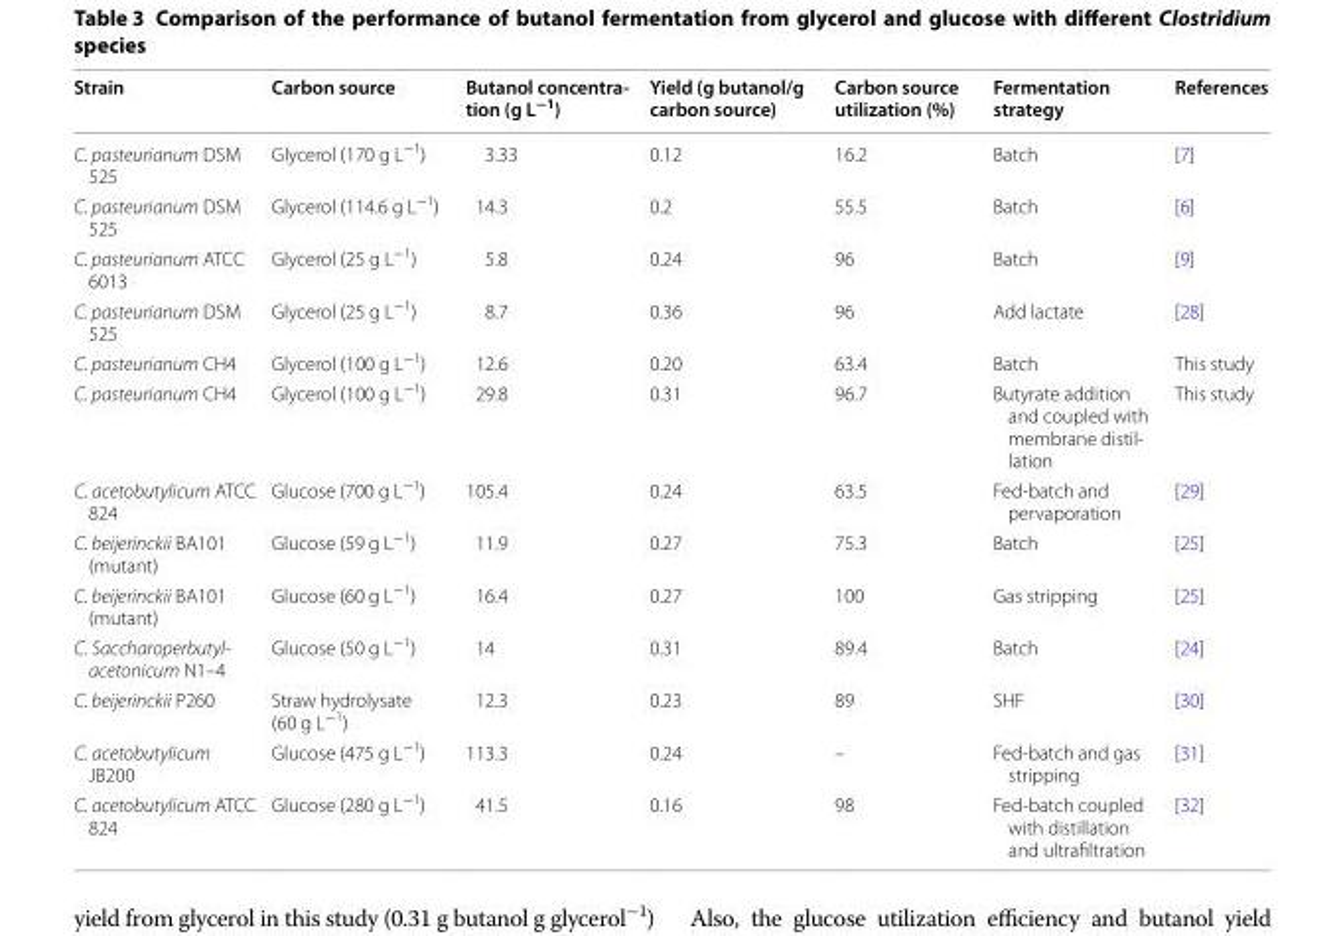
<table><thead><tr><td>Strain</td><td>Carbon source</td><td>Butanol concentra- tion (g L−1)</td><td>Yield (g butanol/g carbon source)</td><td>Carbon source utilization (%)</td><td>Fermentation strategy</td><td>References</td></tr></thead><tbody><tr><td>C. pasteurianum DSM 525</td><td>Glycerol (170 g L<sup>−1</sup>)</td><td>3.33</td><td>0.12</td><td>16.2</td><td>Batch</td><td>[7]</td></tr><tr><td>C. pasteurianum DSM 525</td><td>Glycerol (114.6 g L<sup>−1</sup>)</td><td>14.3</td><td>0.2</td><td>55.5</td><td>Batch</td><td>[6]</td></tr><tr><td>C. pasteurianum ATCC 6013</td><td>Glycerol (25 g L<sup>−1</sup>)</td><td>5.8</td><td>0.24</td><td>96</td><td>Batch</td><td>[9]</td></tr><tr><td>C. pasteurianum DSM 525</td><td>Glycerol (25 g L<sup>−1</sup>)</td><td>8.7</td><td>0.36</td><td>96</td><td>Add lactate</td><td>[28]</td></tr><tr><td>C. pasteurianum CH4</td><td>Glycerol (100 g L<sup>−1</sup>)</td><td>12.6</td><td>0.20</td><td>63.4</td><td>Batch</td><td>This study</td></tr><tr><td>C. pasteurianum CH4</td><td>Glycerol (100 g L<sup>−1</sup>)</td><td>29.8</td><td>0.31</td><td>96.7</td><td>Butyrate addition and coupled with membrane distil‑ lation</td><td>This study</td></tr><tr><td>C. acetobutylicum ATCC 824</td><td>Glucose (700 g L<sup>−1</sup>)</td><td>105.4</td><td>0.24</td><td>63.5</td><td>Fed‑batch and pervaporation</td><td>[29]</td></tr><tr><td>C. beijerinckii BA101 (mutant)</td><td>Glucose (59 g L<sup>−1</sup>)</td><td>11.9</td><td>0.27</td><td>75.3</td><td>Batch</td><td>[25]</td></tr><tr><td>C. beijerinckii BA101 (mutant)</td><td>Glucose (60 g L<sup>−1</sup>)</td><td>16.4</td><td>0.27</td><td>100</td><td>Gas stripping</td><td>[25]</td></tr><tr><td>C. Saccharoperbutyl- acetonicum N1–4</td><td>Glucose (50 g L<sup>−1</sup>)</td><td>14</td><td>0.31</td><td>89.4</td><td>Batch</td><td>[24]</td></tr><tr><td>C. beijerinckii P260</td><td>Straw hydrolysate (60 g L<sup>−1</sup>)</td><td>12.3</td><td>0.23</td><td>89</td><td>SHF</td><td>[30]</td></tr><tr><td>C. acetobutylicum JB200</td><td>Glucose (475 g L<sup>−1</sup>)</td><td>113.3</td><td>0.24</td><td>–</td><td>Fed‑batch and gas stripping</td><td>[31]</td></tr><tr><td>C. acetobutylicum ATCC 824</td><td>Glucose (280 g L<sup>−1</sup>)</td><td>41.5</td><td>0.16</td><td>98</td><td>Fed‑batch coupled with distillation and ultrafiltration</td><td>[32]</td></tr></tbody></table>